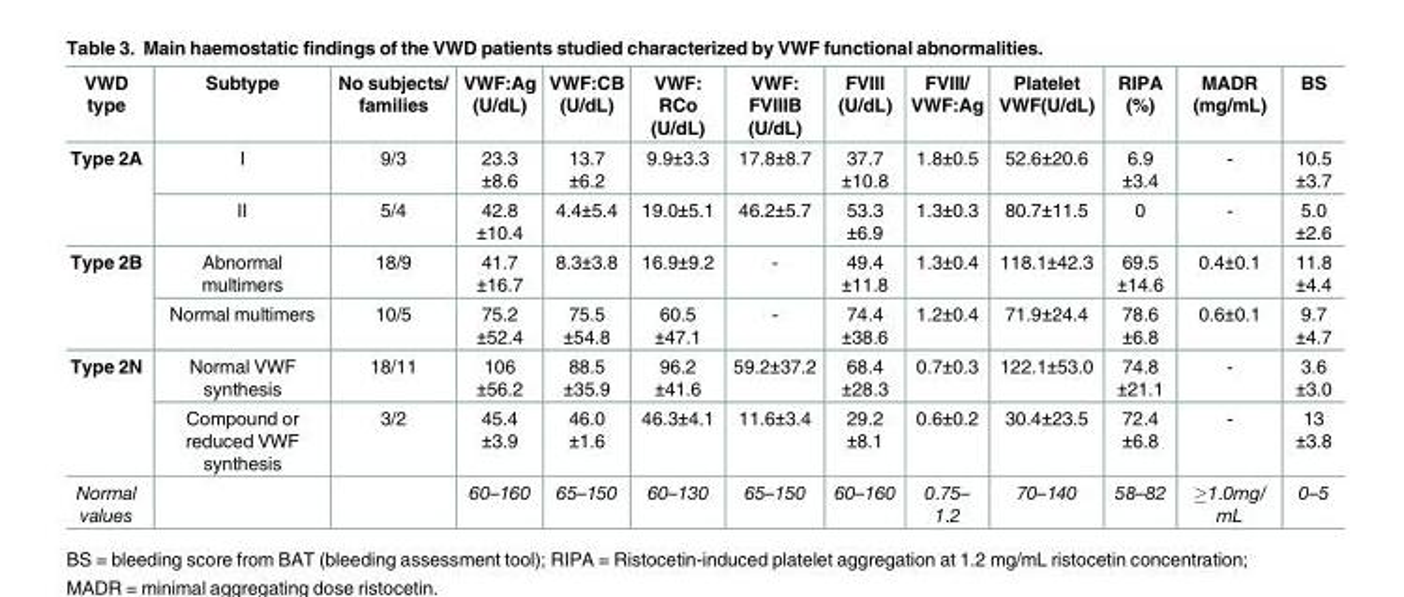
<table><thead><tr><td>VWD type</td><td>Subtype</td><td>No subjects/ families</td><td>VWF:Ag (U/dL)</td><td>VWF:CB (U/dL)</td><td>VWF: RCo (U/dL)</td><td>VWF: FVIIIB (U/dL)</td><td>FVIII (U/dL)</td><td>FVIII/ VWF:Ag</td><td>Platelet VWF(U/dL)</td><td>RIPA (%)</td><td>MADR (mg/mL)</td><td>BS</td></tr></thead><tbody><tr><td rowspan="2">Type 2A</td><td>I</td><td>9/3</td><td>23.3 ±8.6</td><td>13.7 ±6.2</td><td>9.9±3.3</td><td>17.8±8.7</td><td>37.7 ±10.8</td><td>1.8±0.5</td><td>52.6±20.6</td><td>6.9 ±3.4</td><td>-</td><td>10.5 ±3.7</td></tr><tr><td>II</td><td>5/4</td><td>42.8 ±10.4</td><td>4.4±5.4</td><td>19.0±5.1</td><td>46.2±5.7</td><td>53.3 ±6.9</td><td>1.3±0.3</td><td>80.7±11.5</td><td>0</td><td>-</td><td>5.0 ±2.6</td></tr><tr><td rowspan="2">Type 2B</td><td>Abnormal multimers</td><td>18/9</td><td>41.7 ±16.7</td><td>8.3±3.8</td><td>16.9±9.2</td><td>-</td><td>49.4 ±11.8</td><td>1.3±0.4</td><td>118.1±42.3</td><td>69.5 ±14.6</td><td>0.4±0.1</td><td>11.8 ±4.4</td></tr><tr><td>Normal multimers</td><td>10/5</td><td>75.2 ±52.4</td><td>75.5 ±54.8</td><td>60.5 ±47.1</td><td>-</td><td>74.4 ±38.6</td><td>1.2±0.4</td><td>71.9±24.4</td><td>78.6 ±6.8</td><td>0.6±0.1</td><td>9.7 ±4.7</td></tr><tr><td rowspan="2">Type 2N</td><td>Normal VWF synthesis</td><td>18/11</td><td>106 ±56.2</td><td>88.5 ±35.9</td><td>96.2 ±41.6</td><td>59.2±37.2</td><td>68.4 ±28.3</td><td>0.7±0.3</td><td>122.1±53.0</td><td>74.8 ±21.1</td><td>-</td><td>3.6 ±3.0</td></tr><tr><td>Compound or reduced VWF synthesis</td><td>3/2</td><td>45.4 ±3.9</td><td>46.0 ±1.6</td><td>46.3±4.1</td><td>11.6±3.4</td><td>29.2 ±8.1</td><td>0.6±0.2</td><td>30.4±23.5</td><td>72.4 ±6.8</td><td>-</td><td>13 ±3.8</td></tr><tr><td>Normal values</td><td></td><td></td><td>60–160</td><td>65–150</td><td>60–130</td><td>65–150</td><td>60–160</td><td>0.75– 1.2</td><td>70–140</td><td>58–82</td><td>≥1.0mg/ mL</td><td>0–5</td></tr></tbody></table>